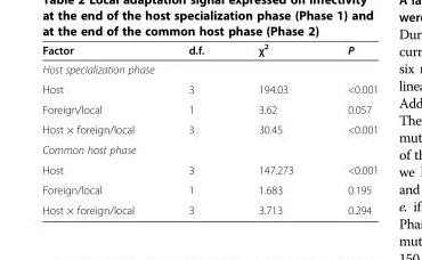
<table><thead><tr><td>Factor</td><td>d.f.</td><td>χ<sup>2</sup></td><td>P</td></tr></thead><tbody><tr><td colspan="4">Host specialization phase</td></tr><tr><td>Host</td><td>3</td><td>194.03</td><td>&lt;0.001</td></tr><tr><td>Foreign/local</td><td>1</td><td>3.62</td><td>0.057</td></tr><tr><td>Host × foreign/local</td><td>3</td><td>30.45</td><td>&lt;0.001</td></tr><tr><td colspan="4">Common host phase</td></tr><tr><td>Host</td><td>3</td><td>147.273</td><td>&lt;0.001</td></tr><tr><td>Foreign/local</td><td>1</td><td>1.683</td><td>0.195</td></tr><tr><td>Host × foreign/local</td><td>3</td><td>3.713</td><td>0.294</td></tr></tbody></table>